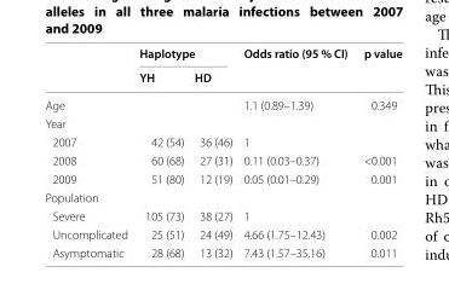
<table><thead><tr><td rowspan="2"></td><td colspan="2">Haplotype</td><td rowspan="2">Odds ratio (95 % CI)</td><td rowspan="2">p value</td></tr><tr><td>YH</td><td>HD</td></tr></thead><tbody><tr><td>Age</td><td></td><td></td><td>1.1 (0.89–1.39)</td><td>0.349</td></tr><tr><td colspan="5">Year</td></tr><tr><td>2007</td><td>42 (54)</td><td>36 (46)</td><td>1</td><td></td></tr><tr><td>2008</td><td>60 (68)</td><td>27 (31)</td><td>0.11 (0.03–0.37)</td><td>&lt;0.001</td></tr><tr><td>2009</td><td>51 (80)</td><td>12 (19)</td><td>0.05 (0.01–0.29)</td><td>0.001</td></tr><tr><td colspan="5">Population</td></tr><tr><td>Severe</td><td>105 (73)</td><td>38 (27)</td><td>1</td><td></td></tr><tr><td>Uncomplicated</td><td>25 (51)</td><td>24 (49)</td><td>4.66 (1.75–12.43)</td><td>0.002</td></tr><tr><td>Asymptomatic</td><td>28 (68)</td><td>13 (32)</td><td>7.43 (1.57–35.16)</td><td>0.011</td></tr></tbody></table>